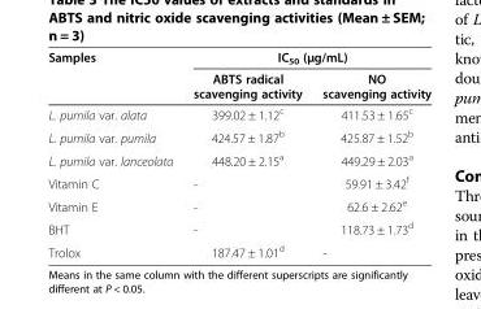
<table><thead><tr><td rowspan="2">Samples</td><td colspan="2">IC<sub>50</sub> (μg/mL)</td></tr><tr><td>ABTS radical scavenging activity</td><td>NO scavenging activity</td></tr></thead><tbody><tr><td>L. pumila var. alata</td><td>399.02 ± 1.12<sup>c</sup></td><td>411.53 ± 1.65<sup>c</sup></td></tr><tr><td>L. pumila var. pumila</td><td>424.57 ± 1.87<sup>b</sup></td><td>425.87 ± 1.52<sup>b</sup></td></tr><tr><td>L. pumila var. lanceolata</td><td>448.20 ± 2.15<sup>a</sup></td><td>449.29 ± 2.03<sup>a</sup></td></tr><tr><td>Vitamin C</td><td>-</td><td>59.91 ± 3.42<sup>f</sup></td></tr><tr><td>Vitamin E</td><td>-</td><td>62.6 ± 2.62<sup>e</sup></td></tr><tr><td>BHT</td><td>-</td><td>118.73 ± 1.73<sup>d</sup></td></tr><tr><td>Trolox</td><td>187.47 ± 1.01<sup>d</sup></td><td>-</td></tr></tbody></table>